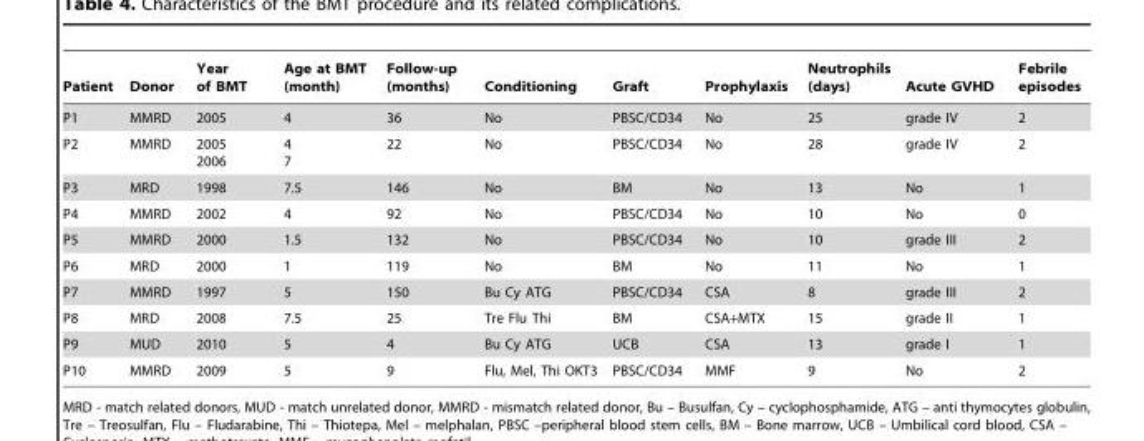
<table><thead><tr><td>Patient</td><td>Donor</td><td>Year of BMT</td><td>Age at BMT (month)</td><td>Follow-up (months)</td><td>Conditioning</td><td>Graft</td><td>Prophylaxis</td><td>Neutrophils (days)</td><td>Acute GVHD</td><td>Febrile episodes</td></tr></thead><tbody><tr><td>P1</td><td>MMRD</td><td>2005</td><td>4</td><td>36</td><td>No</td><td>PBSC/CD34</td><td>No</td><td>25</td><td>grade IV</td><td>2</td></tr><tr><td>P2</td><td>MMRD</td><td>2005 2006</td><td>4 7</td><td>22</td><td>No</td><td>PBSC/CD34</td><td>No</td><td>28</td><td>grade IV</td><td>2</td></tr><tr><td>P3</td><td>MRD</td><td>1998</td><td>7.5</td><td>146</td><td>No</td><td>BM</td><td>No</td><td>13</td><td>No</td><td>1</td></tr><tr><td>P4</td><td>MMRD</td><td>2002</td><td>4</td><td>92</td><td>No</td><td>PBSC/CD34</td><td>No</td><td>10</td><td>No</td><td>0</td></tr><tr><td>P5</td><td>MMRD</td><td>2000</td><td>1.5</td><td>132</td><td>No</td><td>PBSC/CD34</td><td>No</td><td>10</td><td>grade III</td><td>2</td></tr><tr><td>P6</td><td>MRD</td><td>2000</td><td>1</td><td>119</td><td>No</td><td>BM</td><td>No</td><td>11</td><td>No</td><td>1</td></tr><tr><td>P7</td><td>MMRD</td><td>1997</td><td>5</td><td>150</td><td>Bu Cy ATG</td><td>PBSC/CD34</td><td>CSA</td><td>8</td><td>grade III</td><td>2</td></tr><tr><td>P8</td><td>MRD</td><td>2008</td><td>7.5</td><td>25</td><td>Tre Flu Thi</td><td>BM</td><td>CSA+MTX</td><td>15</td><td>grade II</td><td>1</td></tr><tr><td>P9</td><td>MUD</td><td>2010</td><td>5</td><td>4</td><td>Bu Cy ATG</td><td>UCB</td><td>CSA</td><td>13</td><td>grade I</td><td>1</td></tr><tr><td>P10</td><td>MMRD</td><td>2009</td><td>5</td><td>9</td><td>Flu, Mel, Thi OKT3</td><td>PBSC/CD34</td><td>MMF</td><td>9</td><td>No</td><td>2</td></tr></tbody></table>